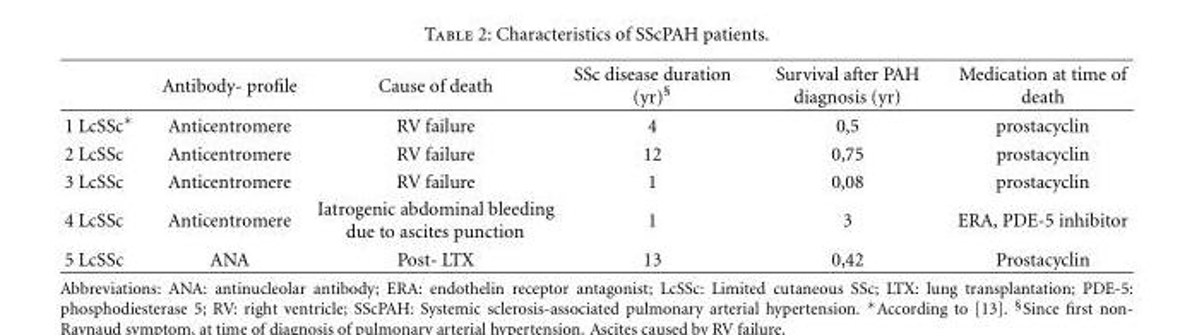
<table><thead><tr><td></td><td>Antibody- profile</td><td>Cause of death</td><td>SSc disease duration (yr)<sup>§</sup></td><td>Survival after PAH diagnosis (yr)</td><td>Medication at time of death</td></tr></thead><tbody><tr><td>1 LcSSc∗</td><td>Anticentromere</td><td>RV failure</td><td>4</td><td>0,5</td><td>prostacyclin</td></tr><tr><td>2 LcSSc</td><td>Anticentromere</td><td>RV failure</td><td>12</td><td>0,75</td><td>prostacyclin</td></tr><tr><td>3 LcSSc</td><td>Anticentromere</td><td>RV failure</td><td>1</td><td>0,08</td><td>prostacyclin</td></tr><tr><td>4 LcSSc</td><td>Anticentromere</td><td>Iatrogenic abdominal bleeding due to ascites punction</td><td>1</td><td>3</td><td>ERA, PDE-5 inhibitor</td></tr><tr><td>5 LcSSc</td><td>ANA</td><td>Post- LTX</td><td>13</td><td>0,42</td><td>Prostacyclin</td></tr></tbody></table>